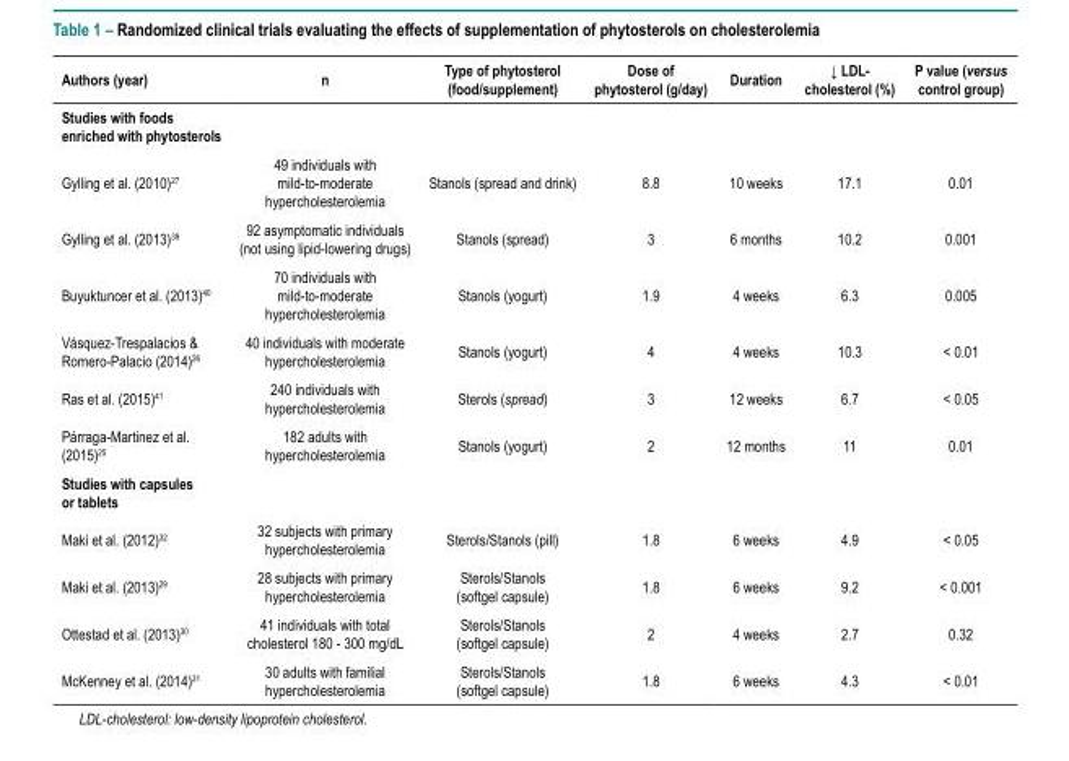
<table><thead><tr><td>Authors (year)</td><td>n</td><td>Type of phytosterol (food/supplement)</td><td>Dose of phytosterol (g/day)</td><td>Duration</td><td>↓ LDL- cholesterol (%)</td><td>P value (versus control group)</td></tr></thead><tbody><tr><td colspan="7">Studies with foods enriched with phytosterols</td></tr><tr><td>Gylling et al. (2010)<sup>27</sup></td><td>49 individuals with mild-to-moderate hypercholesterolemia</td><td>Stanols (spread and drink)</td><td>8.8</td><td>10 weeks</td><td>17.1</td><td>0.01</td></tr><tr><td>Gylling et al. (2013)<sup>39</sup></td><td>92 asymptomatic individuals (not using lipid-lowering drugs)</td><td>Stanols (spread)</td><td>3</td><td>6 months</td><td>10.2</td><td>0.001</td></tr><tr><td>Buyuktuncer et al. (2013)<sup>40</sup></td><td>70 individuals with mild-to-moderate hypercholesterolemia</td><td>Stanols (yogurt)</td><td>1.9</td><td>4 weeks</td><td>6.3</td><td>0.005</td></tr><tr><td>Vásquez-Trespalacios &amp; Romero-Palacio (2014)<sup>26</sup></td><td>40 individuals with moderate hypercholesterolemia</td><td>Stanols (yogurt)</td><td>4</td><td>4 weeks</td><td>10.3</td><td>&lt; 0.01</td></tr><tr><td>Ras et al. (2015)<sup>41</sup></td><td>240 individuals with hypercholesterolemia</td><td>Sterols (spread)</td><td>3</td><td>12 weeks</td><td>6.7</td><td>&lt; 0.05</td></tr><tr><td>Párraga-Martinez et al. (2015)<sup>25</sup></td><td>182 adults with hypercholesterolemia</td><td>Stanols (yogurt)</td><td>2</td><td>12 months</td><td>11</td><td>0.01</td></tr><tr><td colspan="7">Studies with capsules or tablets</td></tr><tr><td>Maki et al. (2012)<sup>32</sup></td><td>32 subjects with primary hypercholesterolemia</td><td>Sterols/Stanols (pill)</td><td>1.8</td><td>6 weeks</td><td>4.9</td><td>&lt; 0.05</td></tr><tr><td>Maki et al. (2013)<sup>29</sup></td><td>28 subjects with primary hypercholesterolemia</td><td>Sterols/Stanols (softgel capsule)</td><td>1.8</td><td>6 weeks</td><td>9.2</td><td>&lt; 0.001</td></tr><tr><td>Ottestad et al. (2013)<sup>30</sup></td><td>41 individuals with total cholesterol 180 - 300 mg/dL</td><td>Sterols/Stanols (softgel capsule)</td><td>2</td><td>4 weeks</td><td>2.7</td><td>0.32</td></tr><tr><td>McKenney et al. (2014)<sup>31</sup></td><td>30 adults with familial hypercholesterolemia</td><td>Sterols/Stanols (softgel capsule)</td><td>1.8</td><td>6 weeks</td><td>4.3</td><td>&lt; 0.01</td></tr></tbody></table>